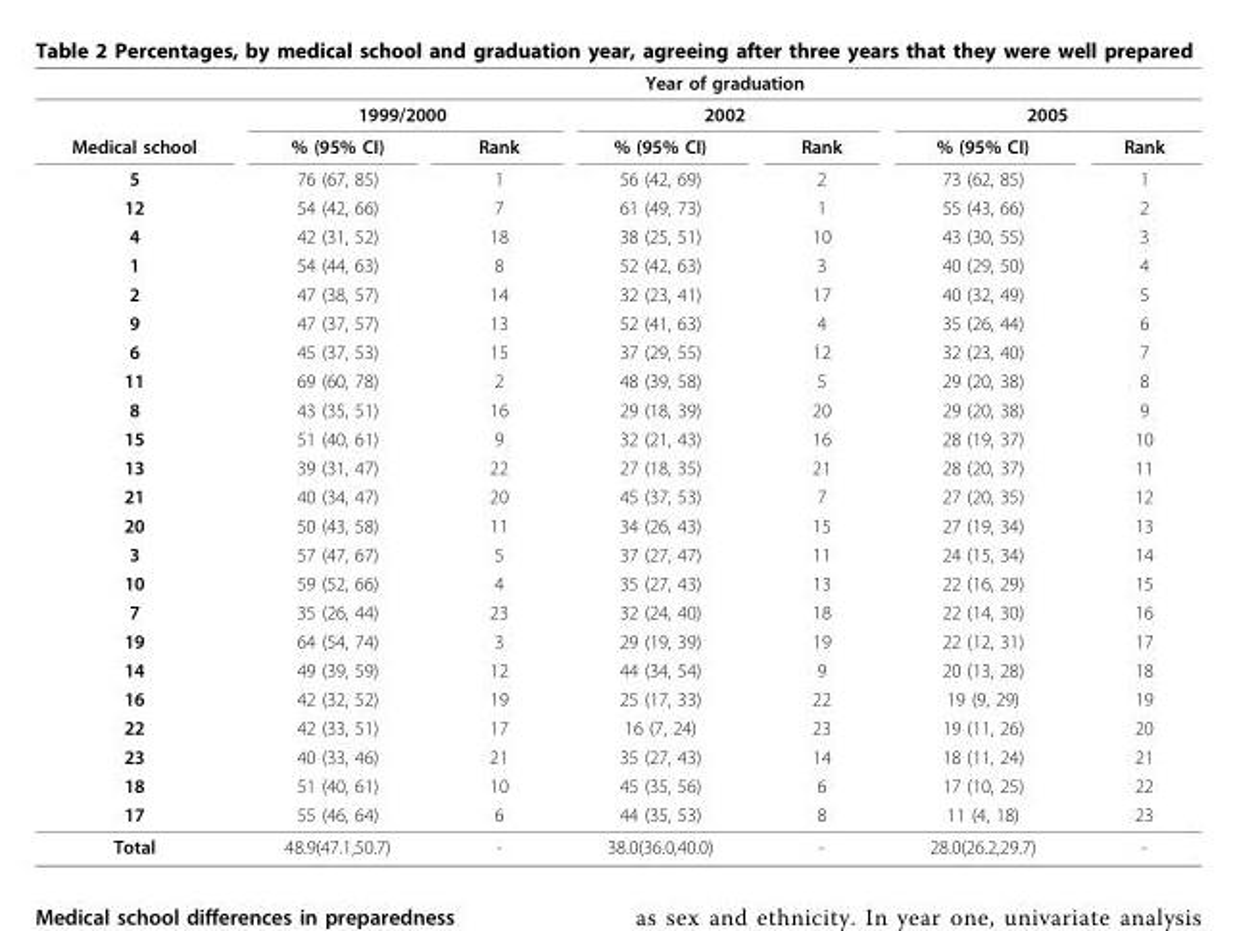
<table><thead><tr><td rowspan="3">Medical school</td><td colspan="6">Year of graduation</td></tr><tr><td colspan="2">1999/2000</td><td colspan="2">2002</td><td colspan="2">2005</td></tr><tr><td>% (95% CI)</td><td>Rank</td><td>% (95% CI)</td><td>Rank</td><td>% (95% CI)</td><td>Rank</td></tr></thead><tbody><tr><td>5</td><td>76 (67, 85)</td><td>1</td><td>56 (42, 69)</td><td>2</td><td>73 (62, 85)</td><td>1</td></tr><tr><td>12</td><td>54 (42, 66)</td><td>7</td><td>61 (49, 73)</td><td>1</td><td>55 (43, 66)</td><td>2</td></tr><tr><td>4</td><td>42 (31, 52)</td><td>18</td><td>38 (25, 51)</td><td>10</td><td>43 (30, 55)</td><td>3</td></tr><tr><td>1</td><td>54 (44, 63)</td><td>8</td><td>52 (42, 63)</td><td>3</td><td>40 (29, 50)</td><td>4</td></tr><tr><td>2</td><td>47 (38, 57)</td><td>14</td><td>32 (23, 41)</td><td>17</td><td>40 (32, 49)</td><td>5</td></tr><tr><td>9</td><td>47 (37, 57)</td><td>13</td><td>52 (41, 63)</td><td>4</td><td>35 (26, 44)</td><td>6</td></tr><tr><td>6</td><td>45 (37, 53)</td><td>15</td><td>37 (29, 55)</td><td>12</td><td>32 (23, 40)</td><td>7</td></tr><tr><td>11</td><td>69 (60, 78)</td><td>2</td><td>48 (39, 58)</td><td>5</td><td>29 (20, 38)</td><td>8</td></tr><tr><td>8</td><td>43 (35, 51)</td><td>16</td><td>29 (18, 39)</td><td>20</td><td>29 (20, 38)</td><td>9</td></tr><tr><td>15</td><td>51 (40, 61)</td><td>9</td><td>32 (21, 43)</td><td>16</td><td>28 (19, 37)</td><td>10</td></tr><tr><td>13</td><td>39 (31, 47)</td><td>22</td><td>27 (18, 35)</td><td>21</td><td>28 (20, 37)</td><td>11</td></tr><tr><td>21</td><td>40 (34, 47)</td><td>20</td><td>45 (37, 53)</td><td>7</td><td>27 (20, 35)</td><td>12</td></tr><tr><td>20</td><td>50 (43, 58)</td><td>11</td><td>34 (26, 43)</td><td>15</td><td>27 (19, 34)</td><td>13</td></tr><tr><td>3</td><td>57 (47, 67)</td><td>5</td><td>37 (27, 47)</td><td>11</td><td>24 (15, 34)</td><td>14</td></tr><tr><td>10</td><td>59 (52, 66)</td><td>4</td><td>35 (27, 43)</td><td>13</td><td>22 (16, 29)</td><td>15</td></tr><tr><td>7</td><td>35 (26, 44)</td><td>23</td><td>32 (24, 40)</td><td>18</td><td>22 (14, 30)</td><td>16</td></tr><tr><td>19</td><td>64 (54, 74)</td><td>3</td><td>29 (19, 39)</td><td>19</td><td>22 (12, 31)</td><td>17</td></tr><tr><td>14</td><td>49 (39, 59)</td><td>12</td><td>44 (34, 54)</td><td>9</td><td>20 (13, 28)</td><td>18</td></tr><tr><td>16</td><td>42 (32, 52)</td><td>19</td><td>25 (17, 33)</td><td>22</td><td>19 (9, 29)</td><td>19</td></tr><tr><td>22</td><td>42 (33, 51)</td><td>17</td><td>16 (7, 24)</td><td>23</td><td>19 (11, 26)</td><td>20</td></tr><tr><td>23</td><td>40 (33, 46)</td><td>21</td><td>35 (27, 43)</td><td>14</td><td>18 (11, 24)</td><td>21</td></tr><tr><td>18</td><td>51 (40, 61)</td><td>10</td><td>45 (35, 56)</td><td>6</td><td>17 (10, 25)</td><td>22</td></tr><tr><td>17</td><td>55 (46, 64)</td><td>6</td><td>44 (35, 53)</td><td>8</td><td>11 (4, 18)</td><td>23</td></tr><tr><td>Total</td><td>48.9(47.1,50.7)</td><td>-</td><td>38.0(36.0,40.0)</td><td>-</td><td>28.0(26.2,29.7)</td><td>-</td></tr></tbody></table>